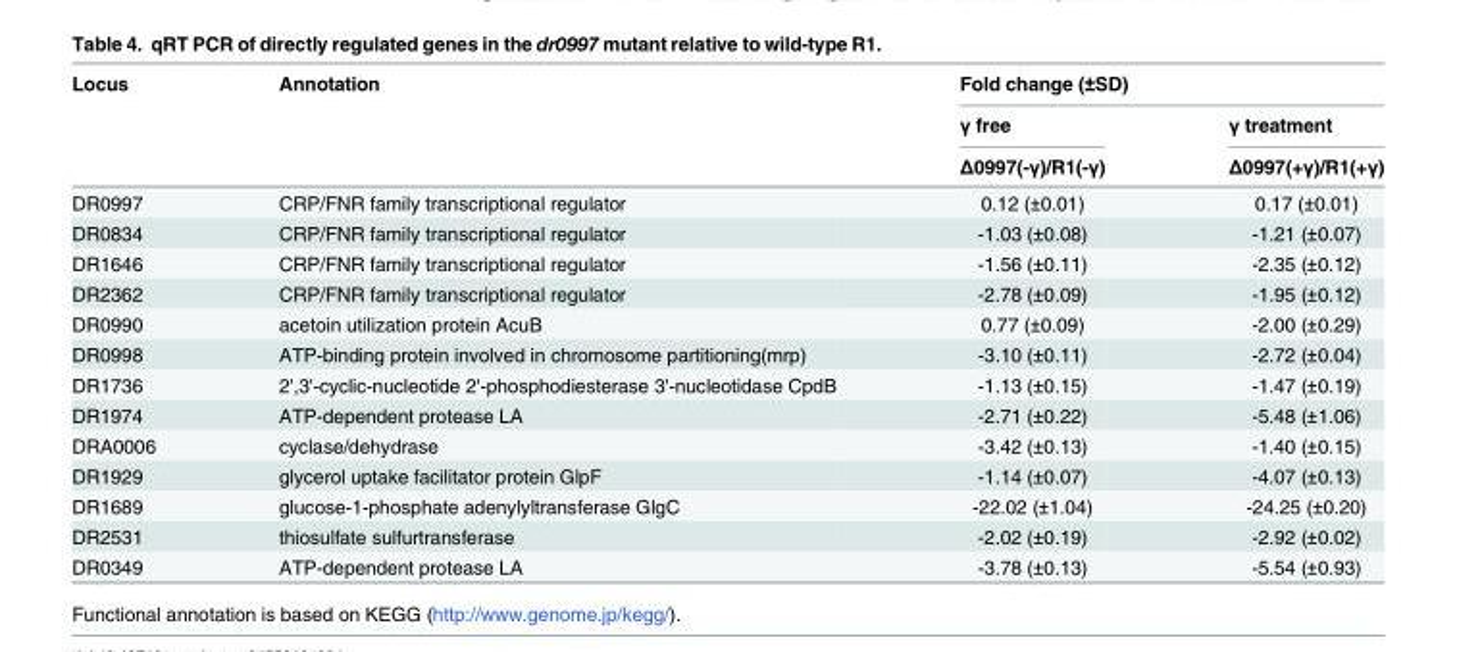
<table><thead><tr><td rowspan="3">Locus</td><td rowspan="3">Annotation</td><td colspan="2">Fold change (±SD)</td></tr><tr><td rowspan="2">γ free Δ0997(-γ)/R1(-γ)</td><td rowspan="2">γ treatment Δ0997(+γ)/R1(+γ)</td></tr><tr></tr></thead><tbody><tr><td>DR0997</td><td>CRP/FNR family transcriptional regulator</td><td>0.12 (±0.01)</td><td>0.17 (±0.01)</td></tr><tr><td>DR0834</td><td>CRP/FNR family transcriptional regulator</td><td>-1.03 (±0.08)</td><td>-1.21 (±0.07)</td></tr><tr><td>DR1646</td><td>CRP/FNR family transcriptional regulator</td><td>-1.56 (±0.11)</td><td>-2.35 (±0.12)</td></tr><tr><td>DR2362</td><td>CRP/FNR family transcriptional regulator</td><td>-2.78 (±0.09)</td><td>-1.95 (±0.12)</td></tr><tr><td>DR0990</td><td>acetoin utilization protein AcuB</td><td>0.77 (±0.09)</td><td>-2.00 (±0.29)</td></tr><tr><td>DR0998</td><td>ATP-binding protein involved in chromosome partitioning(mrp)</td><td>-3.10 (±0.11)</td><td>-2.72 (±0.04)</td></tr><tr><td>DR1736</td><td>2&#x27;,3&#x27;-cyclic-nucleotide 2&#x27;-phosphodiesterase 3&#x27;-nucleotidase CpdB</td><td>-1.13 (±0.15)</td><td>-1.47 (±0.19)</td></tr><tr><td>DR1974</td><td>ATP-dependent protease LA</td><td>-2.71 (±0.22)</td><td>-5.48 (±1.06)</td></tr><tr><td>DRA0006</td><td>cyclase/dehydrase</td><td>-3.42 (±0.13)</td><td>-1.40 (±0.15)</td></tr><tr><td>DR1929</td><td>glycerol uptake facilitator protein GlpF</td><td>-1.14 (±0.07)</td><td>-4.07 (±0.13)</td></tr><tr><td>DR1689</td><td>glucose-1-phosphate adenylyltransferase GlgC</td><td>-22.02 (±1.04)</td><td>-24.25 (±0.20)</td></tr><tr><td>DR2531</td><td>thiosulfate sulfurtransferase</td><td>-2.02 (±0.19)</td><td>-2.92 (±0.02)</td></tr><tr><td>DR0349</td><td>ATP-dependent protease LA</td><td>-3.78 (±0.13)</td><td>-5.54 (±0.93)</td></tr></tbody></table>